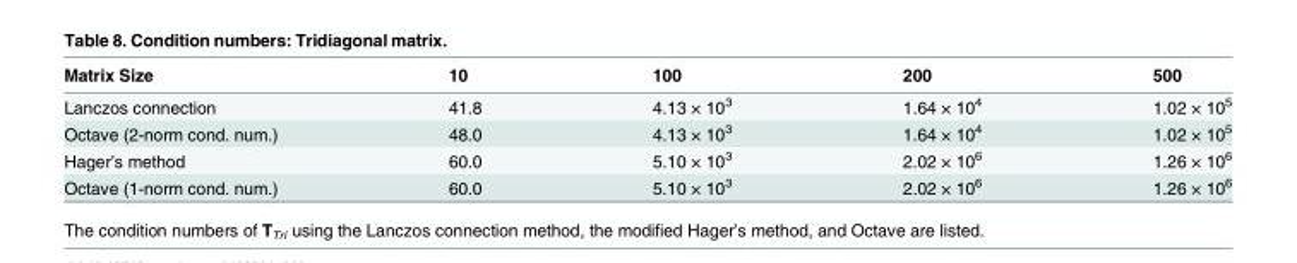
<table><thead><tr><td>Matrix Size</td><td>10</td><td>100</td><td>200</td><td>500</td></tr></thead><tbody><tr><td>Lanczos connection</td><td>41.8</td><td>4.13 × 10<sup>3</sup></td><td>1.64 × 10<sup>4</sup></td><td>1.02 × 10<sup>5</sup></td></tr><tr><td>Octave (2-norm cond. num.)</td><td>48.0</td><td>4.13 × 10<sup>3</sup></td><td>1.64 × 10<sup>4</sup></td><td>1.02 × 10<sup>5</sup></td></tr><tr><td>Hager’s method</td><td>60.0</td><td>5.10 × 10<sup>3</sup></td><td>2.02 × 10<sup>6</sup></td><td>1.26 × 10<sup>6</sup></td></tr><tr><td>Octave (1-norm cond. num.)</td><td>60.0</td><td>5.10 × 10<sup>3</sup></td><td>2.02 × 10<sup>6</sup></td><td>1.26 × 10<sup>6</sup></td></tr></tbody></table>